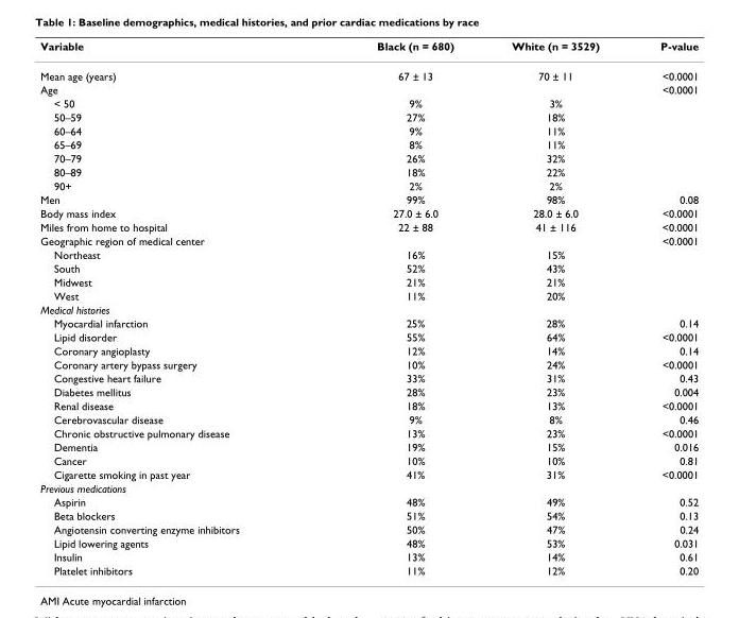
<table><thead><tr><td>Variable</td><td>Black (n = 680)</td><td>White (n = 3529)</td><td>P-value</td></tr></thead><tbody><tr><td>Mean age (years)</td><td>67 ± 13</td><td>70 ± 11</td><td>&lt;0.0001</td></tr><tr><td>Age</td><td></td><td></td><td>&lt;0.0001</td></tr><tr><td>&lt; 50</td><td>9%</td><td>3%</td><td></td></tr><tr><td>50–59</td><td>27%</td><td>18%</td><td></td></tr><tr><td>60–64</td><td>9%</td><td>11%</td><td></td></tr><tr><td>65–69</td><td>8%</td><td>11%</td><td></td></tr><tr><td>70–79</td><td>26%</td><td>32%</td><td></td></tr><tr><td>80–89</td><td>18%</td><td>22%</td><td></td></tr><tr><td>90+</td><td>2%</td><td>2%</td><td></td></tr><tr><td>Men</td><td>99%</td><td>98%</td><td>0.08</td></tr><tr><td>Body mass index</td><td>27.0 ± 6.0</td><td>28.0 ± 6.0</td><td>&lt;0.0001</td></tr><tr><td>Miles from home to hospital</td><td>22 ± 88</td><td>41 ± 116</td><td>&lt;0.0001</td></tr><tr><td>Geographic region of medical center</td><td></td><td></td><td>&lt;0.0001</td></tr><tr><td>Northeast</td><td>16%</td><td>15%</td><td></td></tr><tr><td>South</td><td>52%</td><td>43%</td><td></td></tr><tr><td>Midwest</td><td>21%</td><td>21%</td><td></td></tr><tr><td>West</td><td>11%</td><td>20%</td><td></td></tr><tr><td colspan="4">Medical histories</td></tr><tr><td>Myocardial infarction</td><td>25%</td><td>28%</td><td>0.14</td></tr><tr><td>Lipid disorder</td><td>55%</td><td>64%</td><td>&lt;0.0001</td></tr><tr><td>Coronary angioplasty</td><td>12%</td><td>14%</td><td>0.14</td></tr><tr><td>Coronary artery bypass surgery</td><td>10%</td><td>24%</td><td>&lt;0.0001</td></tr><tr><td>Congestive heart failure</td><td>33%</td><td>31%</td><td>0.43</td></tr><tr><td>Diabetes mellitus</td><td>28%</td><td>23%</td><td>0.004</td></tr><tr><td>Renal disease</td><td>18%</td><td>13%</td><td>&lt;0.0001</td></tr><tr><td>Cerebrovascular disease</td><td>9%</td><td>8%</td><td>0.46</td></tr><tr><td>Chronic obstructive pulmonary disease</td><td>13%</td><td>23%</td><td>&lt;0.0001</td></tr><tr><td>Dementia</td><td>19%</td><td>15%</td><td>0.016</td></tr><tr><td>Cancer</td><td>10%</td><td>10%</td><td>0.81</td></tr><tr><td>Cigarette smoking in past year</td><td>41%</td><td>31%</td><td>&lt;0.0001</td></tr><tr><td colspan="4">Previous medications</td></tr><tr><td>Aspirin</td><td>48%</td><td>49%</td><td>0.52</td></tr><tr><td>Beta blockers</td><td>51%</td><td>54%</td><td>0.13</td></tr><tr><td>Angiotensin converting enzyme inhibitors</td><td>50%</td><td>47%</td><td>0.24</td></tr><tr><td>Lipid lowering agents</td><td>48%</td><td>53%</td><td>0.031</td></tr><tr><td>Insulin</td><td>13%</td><td>14%</td><td>0.61</td></tr><tr><td>Platelet inhibitors</td><td>11%</td><td>12%</td><td>0.20</td></tr></tbody></table>